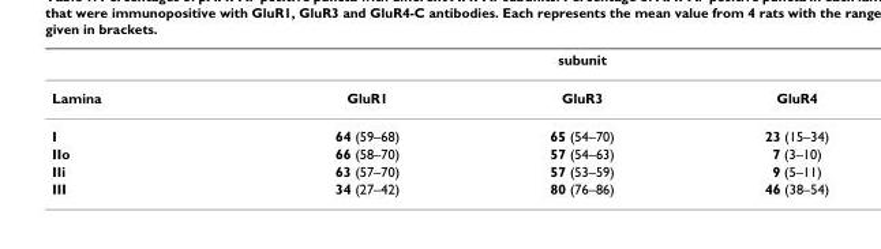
<table><thead><tr><td rowspan="2">Lamina</td><td colspan="3">subunit</td></tr><tr><td>GluR1</td><td>GluR3</td><td>GluR4</td></tr></thead><tbody><tr><td>I</td><td>64 (59–68)</td><td>65 (54–70)</td><td>23 (15–34)</td></tr><tr><td>IIo</td><td>66 (58–70)</td><td>57 (54–63)</td><td>7 (3–10)</td></tr><tr><td>IIi</td><td>63 (57–70)</td><td>57 (53–59)</td><td>9 (5–11)</td></tr><tr><td>III</td><td>34 (27–42)</td><td>80 (76–86)</td><td>46 (38–54)</td></tr></tbody></table>